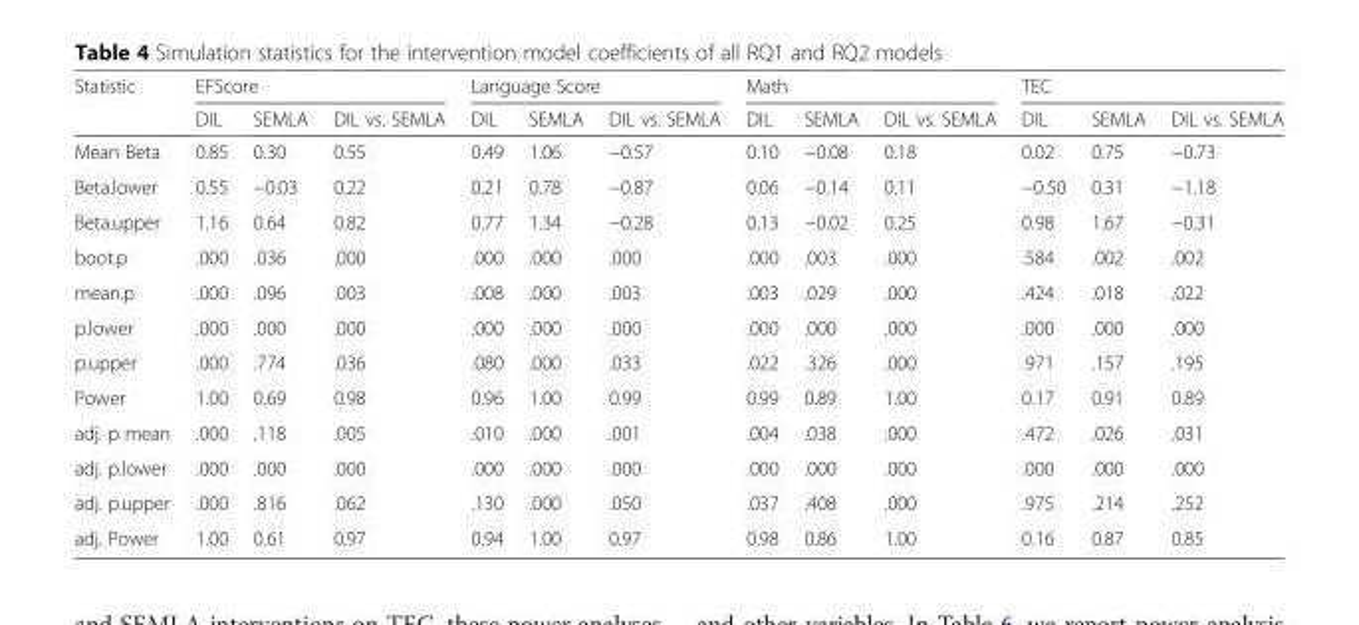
<table><thead><tr><td rowspan="2">Statistic</td><td colspan="3">EFScore</td><td colspan="3">Language Score</td><td colspan="3">Math</td><td colspan="3">TEC</td></tr><tr><td>DIL</td><td>SEMLA</td><td>DIL vs. SEMLA</td><td>DIL</td><td>SEMLA</td><td>DIL vs. SEMLA</td><td>DIL</td><td>SEMLA</td><td>DIL vs. SEMLA</td><td>DIL</td><td>SEMLA</td><td>DIL vs. SEMLA</td></tr></thead><tbody><tr><td>Mean Beta</td><td>0.85</td><td>0.30</td><td>0.55</td><td>0.49</td><td>1.06</td><td>−0.57</td><td>0.10</td><td>−0.08</td><td>0.18</td><td>0.02</td><td>0.75</td><td>−0.73</td></tr><tr><td>Beta.lower</td><td>0.55</td><td>−0.03</td><td>0.22</td><td>0.21</td><td>0.78</td><td>−0.87</td><td>0.06</td><td>−0.14</td><td>0.11</td><td>−0.50</td><td>0.31</td><td>−1.18</td></tr><tr><td>Beta.upper</td><td>1.16</td><td>0.64</td><td>0.82</td><td>0.77</td><td>1.34</td><td>−0.28</td><td>0.13</td><td>−0.02</td><td>0.25</td><td>0.98</td><td>1.67</td><td>−0.31</td></tr><tr><td>boot.p</td><td>.000</td><td>.036</td><td>.000</td><td>.000</td><td>.000</td><td>.000</td><td>.000</td><td>.003</td><td>.000</td><td>.584</td><td>.002</td><td>.002</td></tr><tr><td>mean.p</td><td>.000</td><td>.096</td><td>.003</td><td>.008</td><td>.000</td><td>.003</td><td>.003</td><td>.029</td><td>.000</td><td>.424</td><td>.018</td><td>.022</td></tr><tr><td>p.lower</td><td>.000</td><td>.000</td><td>.000</td><td>.000</td><td>.000</td><td>.000</td><td>.000</td><td>.000</td><td>.000</td><td>.000</td><td>.000</td><td>.000</td></tr><tr><td>p.upper</td><td>.000</td><td>.774</td><td>.036</td><td>.080</td><td>.000</td><td>.033</td><td>.022</td><td>.326</td><td>.000</td><td>.971</td><td>.157</td><td>.195</td></tr><tr><td>Power</td><td>1.00</td><td>0.69</td><td>0.98</td><td>0.96</td><td>1.00</td><td>0.99</td><td>0.99</td><td>0.89</td><td>1.00</td><td>0.17</td><td>0.91</td><td>0.89</td></tr><tr><td>adj. p mean</td><td>.000</td><td>.118</td><td>.005</td><td>.010</td><td>.000</td><td>.001</td><td>.004</td><td>.038</td><td>.000</td><td>.472</td><td>.026</td><td>.031</td></tr><tr><td>adj. p.lower</td><td>.000</td><td>.000</td><td>.000</td><td>.000</td><td>.000</td><td>.000</td><td>.000</td><td>.000</td><td>.000</td><td>.000</td><td>.000</td><td>.000</td></tr><tr><td>adj. p.upper</td><td>.000</td><td>.816</td><td>.062</td><td>.130</td><td>.000</td><td>.050</td><td>.037</td><td>.408</td><td>.000</td><td>.975</td><td>.214</td><td>.252</td></tr><tr><td>adj. Power</td><td>1.00</td><td>0.61</td><td>0.97</td><td>0.94</td><td>1.00</td><td>0.97</td><td>0.98</td><td>0.86</td><td>1.00</td><td>0.16</td><td>0.87</td><td>0.85</td></tr></tbody></table>